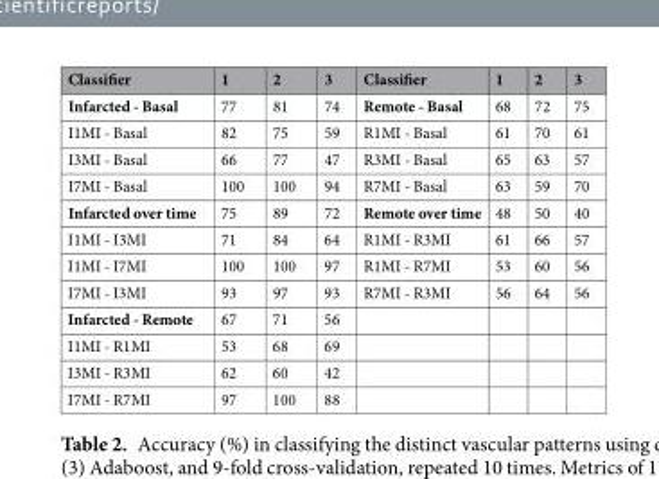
<table><thead><tr><td>Classifier</td><td>1</td><td>2</td><td>3</td><td>Classifier</td><td>1</td><td>2</td><td>3</td></tr></thead><tbody><tr><td>Infarcted - Basal</td><td>77</td><td>81</td><td>74</td><td>Remote - Basal</td><td>68</td><td>72</td><td>75</td></tr><tr><td>I1MI - Basal</td><td>82</td><td>75</td><td>59</td><td>R1MI - Basal</td><td>61</td><td>70</td><td>61</td></tr><tr><td>I3MI - Basal</td><td>66</td><td>77</td><td>47</td><td>R3MI - Basal</td><td>65</td><td>63</td><td>57</td></tr><tr><td>I7MI - Basal</td><td>100</td><td>100</td><td>94</td><td>R7MI - Basal</td><td>63</td><td>59</td><td>70</td></tr><tr><td>Infarcted over time</td><td>75</td><td>89</td><td>72</td><td>Remote over time</td><td>48</td><td>50</td><td>40</td></tr><tr><td>I1MI - I3MI</td><td>71</td><td>84</td><td>64</td><td>R1MI - R3MI</td><td>61</td><td>66</td><td>57</td></tr><tr><td>I1MI - I7MI</td><td>100</td><td>100</td><td>97</td><td>R1MI - R7MI</td><td>53</td><td>60</td><td>56</td></tr><tr><td>I7MI - I3MI</td><td>93</td><td>97</td><td>93</td><td>R7MI - R3MI</td><td>56</td><td>64</td><td>56</td></tr><tr><td>Infarcted - Remote</td><td>67</td><td>71</td><td>56</td><td></td><td></td><td></td><td></td></tr><tr><td>I1MI - R1MI</td><td>53</td><td>68</td><td>69</td><td></td><td></td><td></td><td></td></tr><tr><td>I3MI - R3MI</td><td>62</td><td>60</td><td>42</td><td></td><td></td><td></td><td></td></tr><tr><td>I7MI - R7MI</td><td>97</td><td>100</td><td>88</td><td></td><td></td><td></td><td></td></tr></tbody></table>